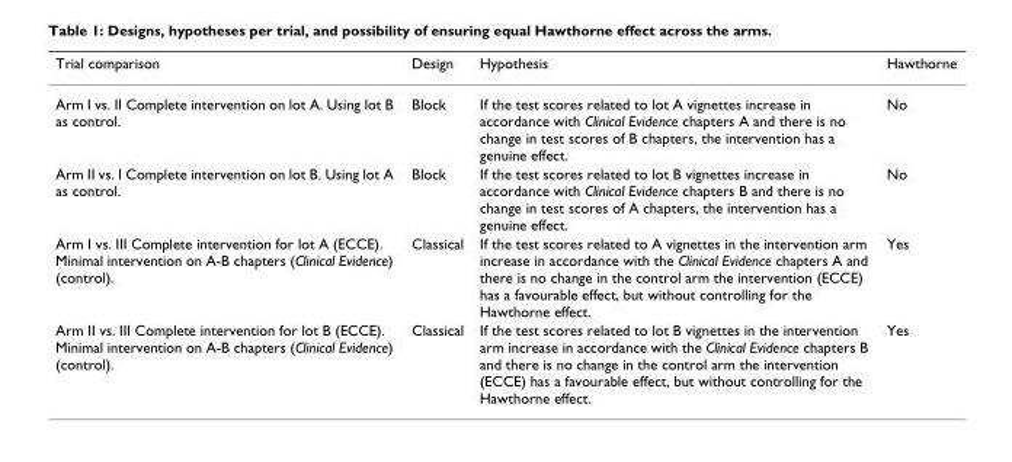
<table><thead><tr><td>Trial comparison</td><td>Design</td><td>Hypothesis</td><td>Hawthorne</td></tr></thead><tbody><tr><td>Arm I vs. II Complete intervention on lot A. Using lot B as control.</td><td>Block</td><td>If the test scores related to lot A vignettes increase in accordance with Clinical Evidence chapters A and there is no change in test scores of B chapters, the intervention has a genuine effect.</td><td>No</td></tr><tr><td>Arm II vs. I Complete intervention on lot B. Using lot A as control.</td><td>Block</td><td>If the test scores related to lot B vignettes increase in accordance with Clinical Evidence chapters B and there is no change in test scores of A chapters, the intervention has a genuine effect.</td><td>No</td></tr><tr><td>Arm I vs. III Complete intervention for lot A (ECCE). Minimal intervention on A-B chapters (Clinical Evidence) (control).</td><td>Classical</td><td>If the test scores related to A vignettes in the intervention arm increase in accordance with the Clinical Evidence chapters A and there is no change in the control arm the intervention (ECCE) has a favourable effect, but without controlling for the Hawthorne effect.</td><td>Yes</td></tr><tr><td>Arm II vs. III Complete intervention for lot B (ECCE). Minimal intervention on A-B chapters (Clinical Evidence) (control).</td><td>Classical</td><td>If the test scores related to lot B vignettes in the intervention arm increase in accordance with the Clinical Evidence chapters B and there is no change in the control arm the intervention (ECCE) has a favourable effect, but without controlling for the Hawthorne effect.</td><td>Yes</td></tr></tbody></table>